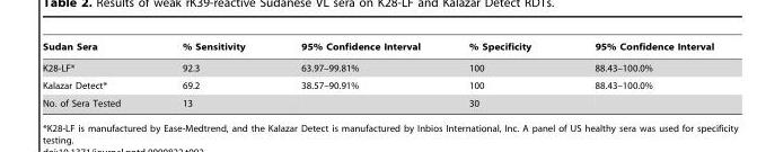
<table><thead><tr><td>Sudan Sera</td><td>% Sensitivity</td><td>95% Confidence Interval</td><td>% Specificity</td><td>95% Confidence Interval</td></tr></thead><tbody><tr><td>K28-LF*</td><td>92.3</td><td>63.97–99.81%</td><td>100</td><td>88.43–100.0%</td></tr><tr><td>Kalazar Detect*</td><td>69.2</td><td>38.57–90.91%</td><td>100</td><td>88.43–100.0%</td></tr><tr><td>No. of Sera Tested</td><td>13</td><td></td><td>30</td><td></td></tr></tbody></table>